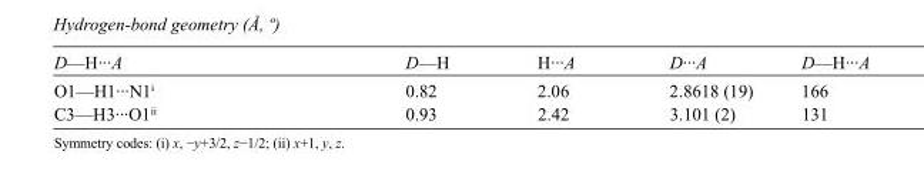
<table><tbody><tr><td>D—H···A</td><td>D—H</td><td>H···A</td><td>D···A</td><td>D—H···A</td></tr><tr><td>O1—H1···N1<sup>i</sup></td><td>0.82</td><td>2.06</td><td>2.8618 (19)</td><td>166</td></tr><tr><td>C3—H3···O1<sup>ii</sup></td><td>0.93</td><td>2.42</td><td>3.101 (2)</td><td>131</td></tr></tbody></table>